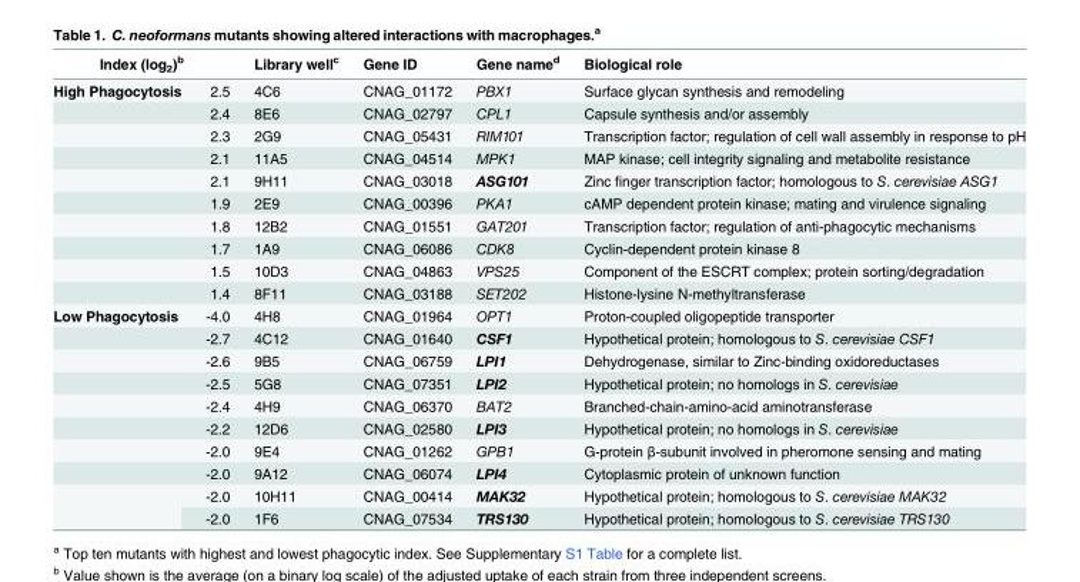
<table><thead><tr><td colspan="2">Index (log<sub>2</sub>)<sup>b</sup></td><td rowspan="2">Library well<sup>c</sup> 4C6</td><td rowspan="2">Gene ID CNAG_01172</td><td rowspan="2">Gene name<sup>d</sup> PBX1</td><td rowspan="2">Biological role Surface glycan synthesis and remodeling</td></tr><tr><td>High Phagocytosis</td><td>2.5</td></tr></thead><tbody><tr><td></td><td>2.4</td><td>8E6</td><td>CNAG_02797</td><td>CPL1</td><td>Capsule synthesis and/or assembly</td></tr><tr><td></td><td>2.3</td><td>2G9</td><td>CNAG_05431</td><td>RIM101</td><td>Transcription factor; regulation of cell wall assembly in response to pH</td></tr><tr><td></td><td>2.1</td><td>11A5</td><td>CNAG_04514</td><td>MPK1</td><td>MAP kinase; cell integrity signaling and metabolite resistance</td></tr><tr><td></td><td>2.1</td><td>9H11</td><td>CNAG_03018</td><td>ASG101</td><td>Zinc finger transcription factor; homologous to S. cerevisiae ASG1</td></tr><tr><td></td><td>1.9</td><td>2E9</td><td>CNAG_00396</td><td>PKA1</td><td>cAMP dependent protein kinase; mating and virulence signaling</td></tr><tr><td></td><td>1.8</td><td>12B2</td><td>CNAG_01551</td><td>GAT201</td><td>Transcription factor; regulation of anti-phagocytic mechanisms</td></tr><tr><td></td><td>1.7</td><td>1A9</td><td>CNAG_06086</td><td>CDK8</td><td>Cyclin-dependent protein kinase 8</td></tr><tr><td></td><td>1.5</td><td>10D3</td><td>CNAG_04863</td><td>VPS25</td><td>Component of the ESCRT complex; protein sorting/degradation</td></tr><tr><td></td><td>1.4</td><td>8F11</td><td>CNAG_03188</td><td>SET202</td><td>Histone-lysine N-methyltransferase</td></tr><tr><td rowspan="10">Low Phagocytosis</td><td>-4.0</td><td>4H8</td><td>CNAG_01964</td><td>OPT1</td><td>Proton-coupled oligopeptide transporter</td></tr><tr><td>-2.7</td><td>4C12</td><td>CNAG_01640</td><td>CSF1</td><td>Hypothetical protein; homologous to S. cerevisiae CSF1</td></tr><tr><td>-2.6</td><td>9B5</td><td>CNAG_06759</td><td>LPI1</td><td>Dehydrogenase, similar to Zinc-binding oxidoreductases</td></tr><tr><td>-2.5</td><td>5G8</td><td>CNAG_07351</td><td>LPI2</td><td>Hypothetical protein; no homologs in S. cerevisiae</td></tr><tr><td>-2.4</td><td>4H9</td><td>CNAG_06370</td><td>BAT2</td><td>Branched-chain-amino-acid aminotransferase</td></tr><tr><td>-2.2</td><td>12D6</td><td>CNAG_02580</td><td>LPI3</td><td>Hypothetical protein; no homologs in S. cerevisiae</td></tr><tr><td>-2.0</td><td>9E4</td><td>CNAG_01262</td><td>GPB1</td><td>G-protein β-subunit involved in pheromone sensing and mating</td></tr><tr><td>-2.0</td><td>9A12</td><td>CNAG_06074</td><td>LPI4</td><td>Cytoplasmic protein of unknown function</td></tr><tr><td>-2.0</td><td>10H11</td><td>CNAG_00414</td><td>MAK32</td><td>Hypothetical protein; homologous to S. cerevisiae MAK32</td></tr><tr><td>-2.0</td><td>1F6</td><td>CNAG_07534</td><td>TRS130</td><td>Hypothetical protein; homologous to S. cerevisiae TRS130</td></tr></tbody></table>